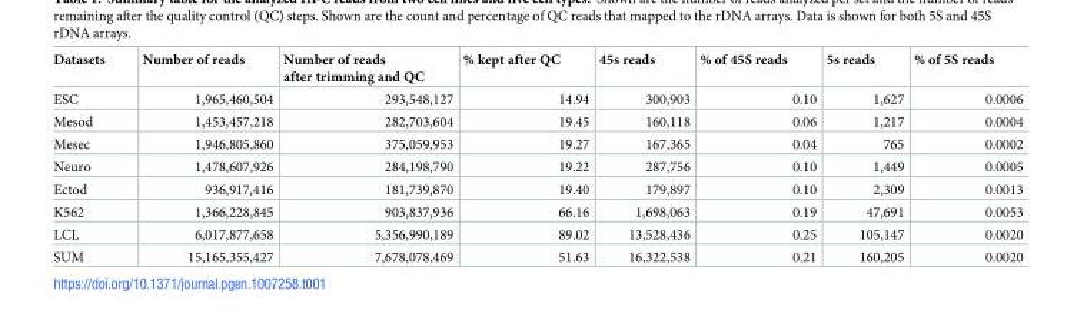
<table><thead><tr><td>Datasets</td><td>Number of reads</td><td>Number of reads after trimming and QC</td><td>% kept after QC</td><td>45s reads</td><td>% of 45S reads</td><td>5s reads</td><td>% of 5S reads</td></tr></thead><tbody><tr><td>ESC</td><td>1,965,460,504</td><td>293,548,127</td><td>14.94</td><td>300,903</td><td>0.10</td><td>1,627</td><td>0.0006</td></tr><tr><td>Mesod</td><td>1,453,457,218</td><td>282,703,604</td><td>19.45</td><td>160,118</td><td>0.06</td><td>1,217</td><td>0.0004</td></tr><tr><td>Mesec</td><td>1,946,805,860</td><td>375,059,953</td><td>19.27</td><td>167,365</td><td>0.04</td><td>765</td><td>0.0002</td></tr><tr><td>Neuro</td><td>1,478,607,926</td><td>284,198,790</td><td>19.22</td><td>287,756</td><td>0.10</td><td>1,449</td><td>0.0005</td></tr><tr><td>Ectod</td><td>936,917,416</td><td>181,739,870</td><td>19.40</td><td>179,897</td><td>0.10</td><td>2,309</td><td>0.0013</td></tr><tr><td>K562</td><td>1,366,228,845</td><td>903,837,936</td><td>66.16</td><td>1,698,063</td><td>0.19</td><td>47,691</td><td>0.0053</td></tr><tr><td>LCL</td><td>6,017,877,658</td><td>5,356,990,189</td><td>89.02</td><td>13,528,436</td><td>0.25</td><td>105,147</td><td>0.0020</td></tr><tr><td>SUM</td><td>15,165,355,427</td><td>7,678,078,469</td><td>51.63</td><td>16,322,538</td><td>0.21</td><td>160,205</td><td>0.0020</td></tr></tbody></table>